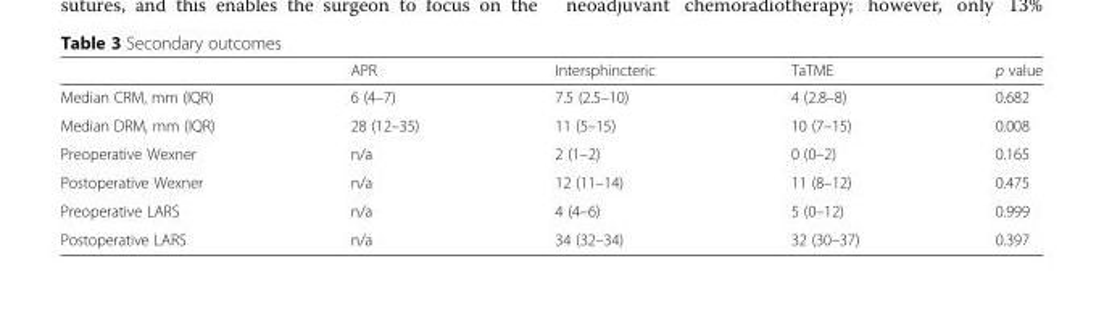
<table><thead><tr><td></td><td>APR</td><td>Intersphincteric</td><td>TaTME</td><td>p value</td></tr></thead><tbody><tr><td>Median CRM, mm (IQR)</td><td>6 (4–7)</td><td>7.5 (2.5–10)</td><td>4 (2.8–8)</td><td>0.682</td></tr><tr><td>Median DRM, mm (IQR)</td><td>28 (12–35)</td><td>11 (5–15)</td><td>10 (7–15)</td><td>0.008</td></tr><tr><td>Preoperative Wexner</td><td>n/a</td><td>2 (1–2)</td><td>0 (0–2)</td><td>0.165</td></tr><tr><td>Postoperative Wexner</td><td>n/a</td><td>12 (11–14)</td><td>11 (8–12)</td><td>0.475</td></tr><tr><td>Preoperative LARS</td><td>n/a</td><td>4 (4–6)</td><td>5 (0–12)</td><td>0.999</td></tr><tr><td>Postoperative LARS</td><td>n/a</td><td>34 (32–34)</td><td>32 (30–37)</td><td>0.397</td></tr></tbody></table>